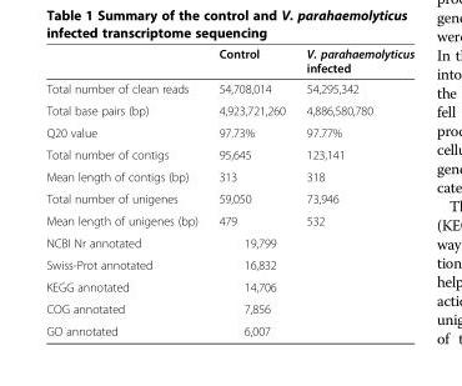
<table><thead><tr><td></td><td>Control</td><td>V. parahaemolyticus infected</td></tr></thead><tbody><tr><td>Total number of clean reads</td><td>54,708,014</td><td>54,295,342</td></tr><tr><td>Total base pairs (bp)</td><td>4,923,721,260</td><td>4,886,580,780</td></tr><tr><td>Q20 value</td><td>97.73%</td><td>97.77%</td></tr><tr><td>Total number of contigs</td><td>95,645</td><td>123,141</td></tr><tr><td>Mean length of contigs (bp)</td><td>313</td><td>318</td></tr><tr><td>Total number of unigenes</td><td>59,050</td><td>73,946</td></tr><tr><td>Mean length of unigenes (bp)</td><td>479</td><td>532</td></tr><tr><td>NCBI Nr annotated</td><td colspan="2">19,799</td></tr><tr><td>Swiss-Prot annotated</td><td colspan="2">16,832</td></tr><tr><td>KEGG annotated</td><td colspan="2">14,706</td></tr><tr><td>COG annotated</td><td colspan="2">7,856</td></tr><tr><td>GO annotated</td><td colspan="2">6,007</td></tr></tbody></table>